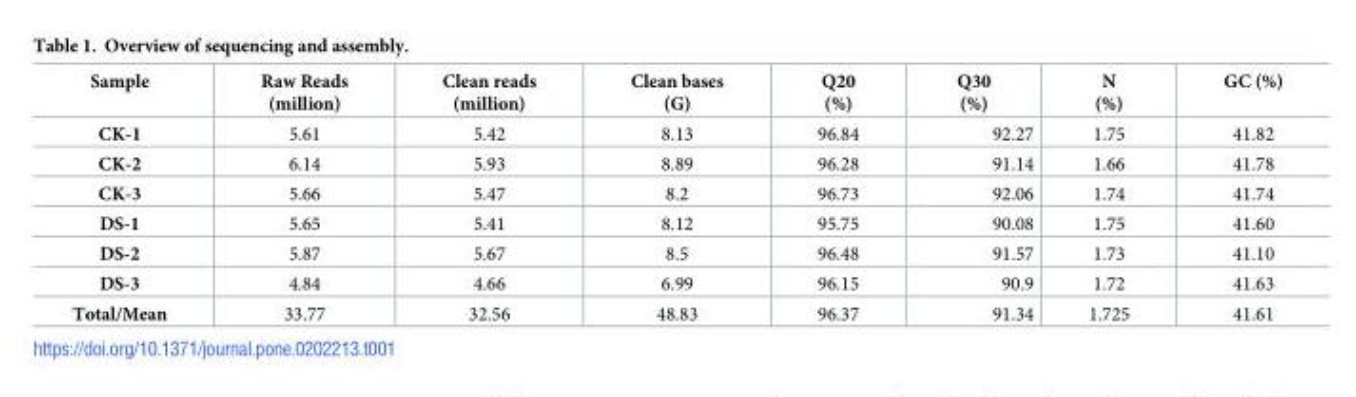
<table><thead><tr><td>Sample</td><td>Raw Reads (million)</td><td>Clean reads (million)</td><td>Clean bases (G)</td><td>Q20 (%)</td><td>Q30 (%)</td><td>N (%)</td><td>GC (%)</td></tr></thead><tbody><tr><td>CK-1</td><td>5.61</td><td>5.42</td><td>8.13</td><td>96.84</td><td>92.27</td><td>1.75</td><td>41.82</td></tr><tr><td>CK-2</td><td>6.14</td><td>5.93</td><td>8.89</td><td>96.28</td><td>91.14</td><td>1.66</td><td>41.78</td></tr><tr><td>CK-3</td><td>5.66</td><td>5.47</td><td>8.2</td><td>96.73</td><td>92.06</td><td>1.74</td><td>41.74</td></tr><tr><td>DS-1</td><td>5.65</td><td>5.41</td><td>8.12</td><td>95.75</td><td>90.08</td><td>1.75</td><td>41.60</td></tr><tr><td>DS-2</td><td>5.87</td><td>5.67</td><td>8.5</td><td>96.48</td><td>91.57</td><td>1.73</td><td>41.10</td></tr><tr><td>DS-3</td><td>4.84</td><td>4.66</td><td>6.99</td><td>96.15</td><td>90.9</td><td>1.72</td><td>41.63</td></tr><tr><td>Total/Mean</td><td>33.77</td><td>32.56</td><td>48.83</td><td>96.37</td><td>91.34</td><td>1.725</td><td>41.61</td></tr></tbody></table>